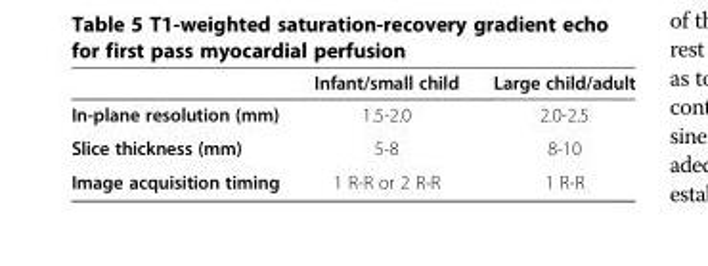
<table><thead><tr><td></td><td>Infant/small child</td><td>Large child/adult</td></tr></thead><tbody><tr><td>In-plane resolution (mm)</td><td>1.5-2.0</td><td>2.0-2.5</td></tr><tr><td>Slice thickness (mm)</td><td>5-8</td><td>8-10</td></tr><tr><td>Image acquisition timing</td><td>1 R-R or 2 R-R</td><td>1 R-R</td></tr></tbody></table>